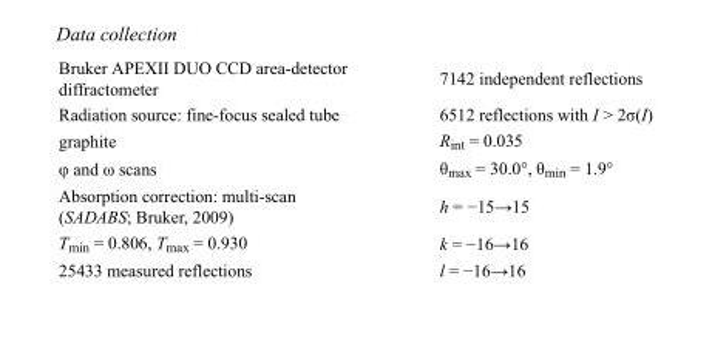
<table><tbody><tr><td>Bruker APEXII DUO CCD area-detector diffractometer</td><td>7142 independent reflections</td></tr><tr><td>Radiation source: fine-focus sealed tube</td><td>6512 reflections with I &gt; 2σ(I)</td></tr><tr><td>graphite</td><td>R<sub>int</sub> = 0.035</td></tr><tr><td>φ and ω scans</td><td>θ<sub>max</sub> = 30.0°, θ<sub>min</sub> = 1.9°</td></tr><tr><td>Absorption correction: multi-scan (SADABS; Bruker, 2009)</td><td>h = −15→15</td></tr><tr><td>T<sub>min</sub> = 0.806, T<sub>max</sub> = 0.930</td><td>k = −16→16</td></tr><tr><td>25433 measured reflections</td><td>l = −16→16</td></tr></tbody></table>